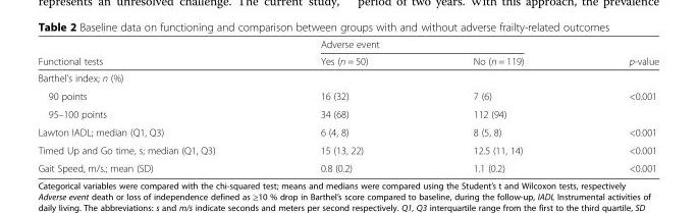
<table><thead><tr><td rowspan="2">Functional tests</td><td colspan="2">Adverse event</td><td rowspan="2">p-value</td></tr><tr><td>Yes (n = 50)</td><td>No (n = 119)</td></tr></thead><tbody><tr><td colspan="4">Barthel’s index; n (%)</td></tr><tr><td>90 points</td><td>16 (32)</td><td>7 (6)</td><td>&lt;0.001</td></tr><tr><td>95–100 points</td><td>34 (68)</td><td>112 (94)</td><td></td></tr><tr><td>Lawton IADL; median (Q1, Q3)</td><td>6 (4, 8)</td><td>8 (5, 8)</td><td>&lt;0.001</td></tr><tr><td>Timed Up and Go time, s; median (Q1, Q3)</td><td>15 (13, 22)</td><td>12.5 (11, 14)</td><td>&lt;0.001</td></tr><tr><td>Gait Speed, m/s.; mean (SD)</td><td>0.8 (0.2)</td><td>1.1 (0.2)</td><td>&lt;0.001</td></tr></tbody></table>